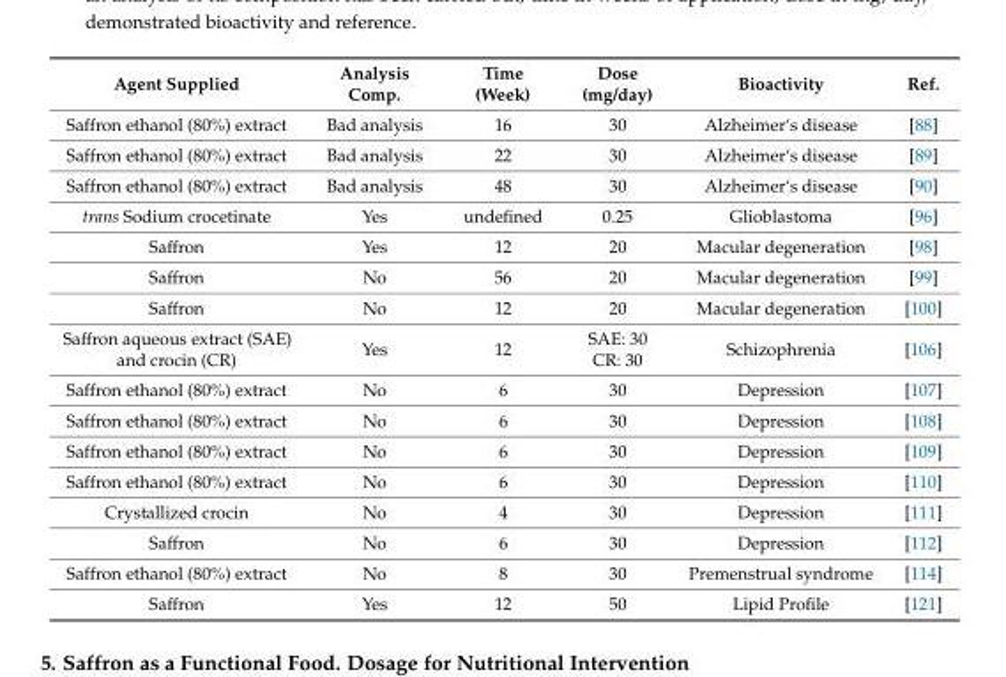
<table><thead><tr><td>Agent Supplied</td><td>Analysis Comp.</td><td>Time (Week)</td><td>Dose (mg/day)</td><td>Bioactivity</td><td>Ref.</td></tr></thead><tbody><tr><td>Saffron ethanol (80%) extract</td><td>Bad analysis</td><td>16</td><td>30</td><td>Alzheimer‘s disease</td><td>[88]</td></tr><tr><td>Saffron ethanol (80%) extract</td><td>Bad analysis</td><td>22</td><td>30</td><td>Alzheimer‘s disease</td><td>[89]</td></tr><tr><td>Saffron ethanol (80%) extract</td><td>Bad analysis</td><td>48</td><td>30</td><td>Alzheimer‘s disease</td><td>[90]</td></tr><tr><td>trans Sodium crocetinate</td><td>Yes</td><td>undefined</td><td>0.25</td><td>Glioblastoma</td><td>[96]</td></tr><tr><td>Saffron</td><td>Yes</td><td>12</td><td>20</td><td>Macular degeneration</td><td>[98]</td></tr><tr><td>Saffron</td><td>No</td><td>56</td><td>20</td><td>Macular degeneration</td><td>[99]</td></tr><tr><td>Saffron</td><td>No</td><td>12</td><td>20</td><td>Macular degeneration</td><td>[100]</td></tr><tr><td>Saffron aqueous extract (SAE) and crocin (CR)</td><td>Yes</td><td>12</td><td>SAE: 30 CR: 30</td><td>Schizophrenia</td><td>[106]</td></tr><tr><td>Saffron ethanol (80%) extract</td><td>No</td><td>6</td><td>30</td><td>Depression</td><td>[107]</td></tr><tr><td>Saffron ethanol (80%) extract</td><td>No</td><td>6</td><td>30</td><td>Depression</td><td>[108]</td></tr><tr><td>Saffron ethanol (80%) extract</td><td>No</td><td>6</td><td>30</td><td>Depression</td><td>[109]</td></tr><tr><td>Saffron ethanol (80%) extract</td><td>No</td><td>6</td><td>30</td><td>Depression</td><td>[110]</td></tr><tr><td>Crystallized crocin</td><td>No</td><td>4</td><td>30</td><td>Depression</td><td>[111]</td></tr><tr><td>Saffron</td><td>No</td><td>6</td><td>30</td><td>Depression</td><td>[112]</td></tr><tr><td>Saffron ethanol (80%) extract</td><td>No</td><td>8</td><td>30</td><td>Premenstrual syndrome</td><td>[114]</td></tr><tr><td>Saffron</td><td>Yes</td><td>12</td><td>50</td><td>Lipid Profile</td><td>[121]</td></tr></tbody></table>